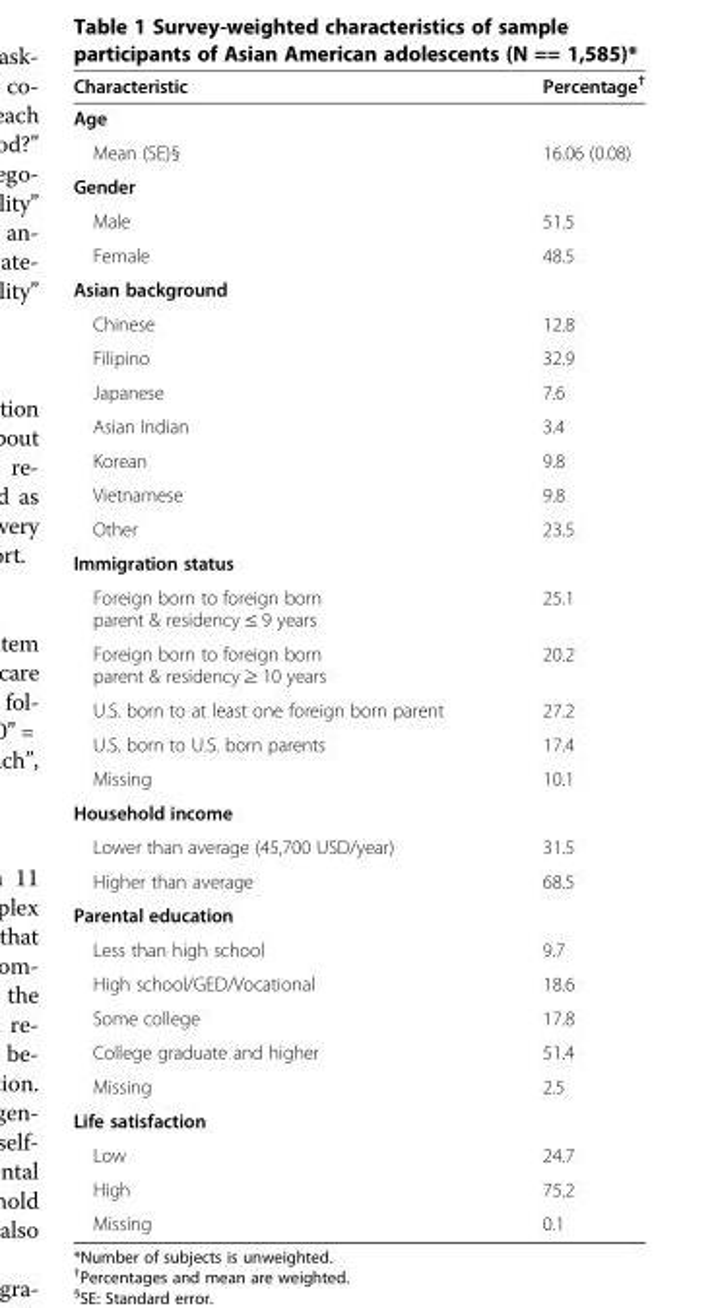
<table><thead><tr><td>Characteristic</td><td>Percentage<sup>†</sup></td></tr></thead><tbody><tr><td colspan="2">Age</td></tr><tr><td>Mean (SE)§</td><td>16.06 (0.08)</td></tr><tr><td colspan="2">Gender</td></tr><tr><td>Male</td><td>51.5</td></tr><tr><td>Female</td><td>48.5</td></tr><tr><td colspan="2">Asian background</td></tr><tr><td>Chinese</td><td>12.8</td></tr><tr><td>Filipino</td><td>32.9</td></tr><tr><td>Japanese</td><td>7.6</td></tr><tr><td>Asian Indian</td><td>3.4</td></tr><tr><td>Korean</td><td>9.8</td></tr><tr><td>Vietnamese</td><td>9.8</td></tr><tr><td>Other</td><td>23.5</td></tr><tr><td colspan="2">Immigration status</td></tr><tr><td>Foreign born to foreign born parent &amp; residency ≤ 9 years</td><td>25.1</td></tr><tr><td>Foreign born to foreign born parent &amp; residency ≥ 10 years</td><td>20.2</td></tr><tr><td>U.S. born to at least one foreign born parent</td><td>27.2</td></tr><tr><td>U.S. born to U.S. born parents</td><td>17.4</td></tr><tr><td>Missing</td><td>10.1</td></tr><tr><td colspan="2">Household income</td></tr><tr><td>Lower than average (45,700 USD/year)</td><td>31.5</td></tr><tr><td>Higher than average</td><td>68.5</td></tr><tr><td colspan="2">Parental education</td></tr><tr><td>Less than high school</td><td>9.7</td></tr><tr><td>High school/GED/Vocational</td><td>18.6</td></tr><tr><td>Some college</td><td>17.8</td></tr><tr><td>College graduate and higher</td><td>51.4</td></tr><tr><td>Missing</td><td>2.5</td></tr><tr><td colspan="2">Life satisfaction</td></tr><tr><td>Low</td><td>24.7</td></tr><tr><td>High</td><td>75.2</td></tr><tr><td>Missing</td><td>0.1</td></tr></tbody></table>